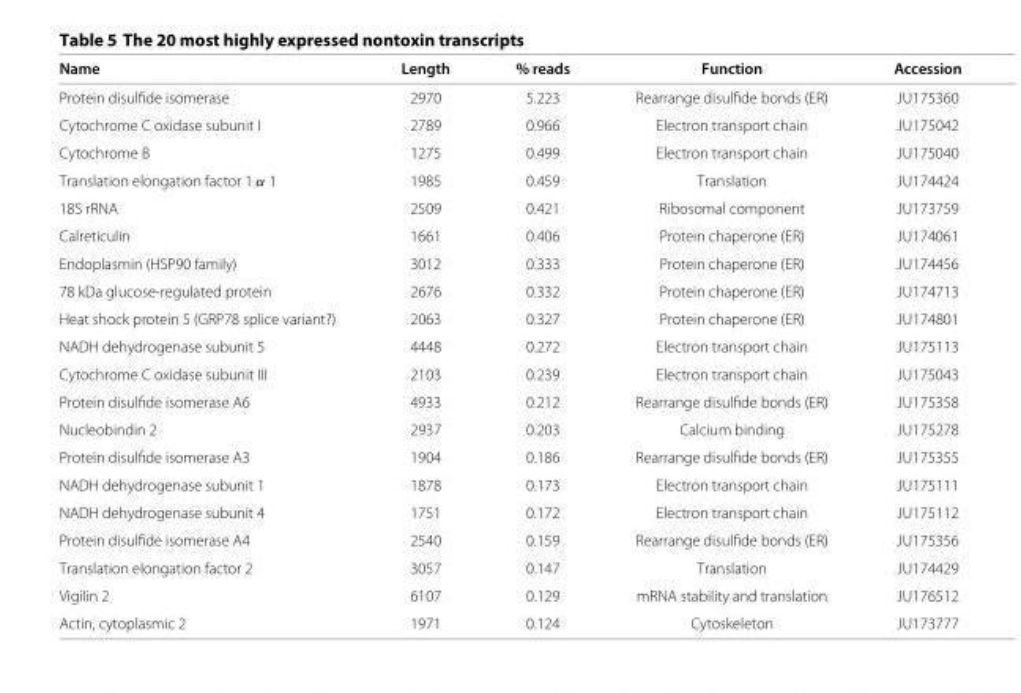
<table><thead><tr><td>Name</td><td>Length</td><td>% reads</td><td>Function</td><td>Accession</td></tr></thead><tbody><tr><td>Protein disulfide isomerase</td><td>2970</td><td>5.223</td><td>Rearrange disulfide bonds (ER)</td><td>JU175360</td></tr><tr><td>Cytochrome C oxidase subunit I</td><td>2789</td><td>0.966</td><td>Electron transport chain</td><td>JU175042</td></tr><tr><td>Cytochrome B</td><td>1275</td><td>0.499</td><td>Electron transport chain</td><td>JU175040</td></tr><tr><td>Translation elongation factor 1 α 1</td><td>1985</td><td>0.459</td><td>Translation</td><td>JU174424</td></tr><tr><td>18S rRNA</td><td>2509</td><td>0.421</td><td>Ribosomal component</td><td>JU173759</td></tr><tr><td>Calreticulin</td><td>1661</td><td>0.406</td><td>Protein chaperone (ER)</td><td>JU174061</td></tr><tr><td>Endoplasmin (HSP90 family)</td><td>3012</td><td>0.333</td><td>Protein chaperone (ER)</td><td>JU174456</td></tr><tr><td>78 kDa glucose-regulated protein</td><td>2676</td><td>0.332</td><td>Protein chaperone (ER)</td><td>JU174713</td></tr><tr><td>Heat shock protein 5 (GRP78 splice variant?)</td><td>2063</td><td>0.327</td><td>Protein chaperone (ER)</td><td>JU174801</td></tr><tr><td>NADH dehydrogenase subunit 5</td><td>4448</td><td>0.272</td><td>Electron transport chain</td><td>JU175113</td></tr><tr><td>Cytochrome C oxidase subunit III</td><td>2103</td><td>0.239</td><td>Electron transport chain</td><td>JU175043</td></tr><tr><td>Protein disulfide isomerase A6</td><td>4933</td><td>0.212</td><td>Rearrange disulfide bonds (ER)</td><td>JU175358</td></tr><tr><td>Nucleobindin 2</td><td>2937</td><td>0.203</td><td>Calcium binding</td><td>JU175278</td></tr><tr><td>Protein disulfide isomerase A3</td><td>1904</td><td>0.186</td><td>Rearrange disulfide bonds (ER)</td><td>JU175355</td></tr><tr><td>NADH dehydrogenase subunit 1</td><td>1878</td><td>0.173</td><td>Electron transport chain</td><td>JU175111</td></tr><tr><td>NADH dehydrogenase subunit 4</td><td>1751</td><td>0.172</td><td>Electron transport chain</td><td>JU175112</td></tr><tr><td>Protein disulfide isomerase A4</td><td>2540</td><td>0.159</td><td>Rearrange disulfide bonds (ER)</td><td>JU175356</td></tr><tr><td>Translation elongation factor 2</td><td>3057</td><td>0.147</td><td>Translation</td><td>JU174429</td></tr><tr><td>Vigilin 2</td><td>6107</td><td>0.129</td><td>mRNA stability and translation</td><td>JU176512</td></tr><tr><td>Actin, cytoplasmic 2</td><td>1971</td><td>0.124</td><td>Cytoskeleton</td><td>JU173777</td></tr></tbody></table>